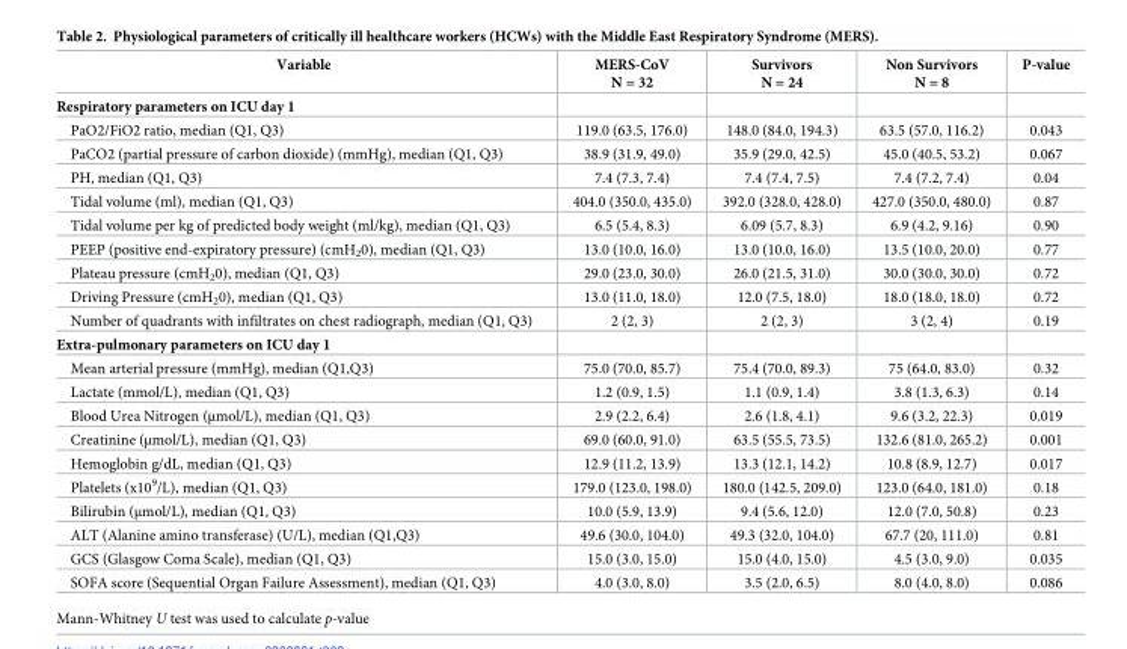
<table><thead><tr><td>Variable</td><td>MERS-CoV N = 32</td><td>Survivors N = 24</td><td>Non Survivors N = 8</td><td>P-value</td></tr></thead><tbody><tr><td colspan="5">Respiratory parameters on ICU day 1</td></tr><tr><td>PaO2/FiO2 ratio, median (Q1, Q3)</td><td>119.0 (63.5, 176.0)</td><td>148.0 (84.0, 194.3)</td><td>63.5 (57.0, 116.2)</td><td>0.043</td></tr><tr><td>PaCO2 (partial pressure of carbon dioxide) (mmHg), median (Q1, Q3)</td><td>38.9 (31.9, 49.0)</td><td>35.9 (29.0, 42.5)</td><td>45.0 (40.5, 53.2)</td><td>0.067</td></tr><tr><td>PH, median (Q1, Q3)</td><td>7.4 (7.3, 7.4)</td><td>7.4 (7.4, 7.5)</td><td>7.4 (7.2, 7.4)</td><td>0.04</td></tr><tr><td>Tidal volume (ml), median (Q1, Q3)</td><td>404.0 (350.0, 435.0)</td><td>392.0 (328.0, 428.0)</td><td>427.0 (350.0, 480.0)</td><td>0.87</td></tr><tr><td>Tidal volume per kg of predicted body weight (ml/kg), median (Q1, Q3)</td><td>6.5 (5.4, 8.3)</td><td>6.09 (5.7, 8.3)</td><td>6.9 (4.2, 9.16)</td><td>0.90</td></tr><tr><td>PEEP (positive end-expiratory pressure) (cmH<sub>2</sub>0), median (Q1, Q3)</td><td>13.0 (10.0, 16.0)</td><td>13.0 (10.0, 16.0)</td><td>13.5 (10.0, 20.0)</td><td>0.77</td></tr><tr><td>Plateau pressure (cmH<sub>2</sub>0), median (Q1, Q3)</td><td>29.0 (23.0, 30.0)</td><td>26.0 (21.5, 31.0)</td><td>30.0 (30.0, 30.0)</td><td>0.72</td></tr><tr><td>Driving Pressure (cmH<sub>2</sub>0), median (Q1, Q3)</td><td>13.0 (11.0, 18.0)</td><td>12.0 (7.5, 18.0)</td><td>18.0 (18.0, 18.0)</td><td>0.72</td></tr><tr><td>Number of quadrants with infiltrates on chest radiograph, median (Q1, Q3)</td><td>2 (2, 3)</td><td>2 (2, 3)</td><td>3 (2, 4)</td><td>0.19</td></tr><tr><td colspan="5">Extra-pulmonary parameters on ICU day 1</td></tr><tr><td>Mean arterial pressure (mmHg), median (Q1,Q3)</td><td>75.0 (70.0, 85.7)</td><td>75.4 (70.0, 89.3)</td><td>75 (64.0, 83.0)</td><td>0.32</td></tr><tr><td>Lactate (mmol/L), median (Q1, Q3)</td><td>1.2 (0.9, 1.5)</td><td>1.1 (0.9, 1.4)</td><td>3.8 (1.3, 6.3)</td><td>0.14</td></tr><tr><td>Blood Urea Nitrogen (μmol/L), median (Q1, Q3)</td><td>2.9 (2.2, 6.4)</td><td>2.6 (1.8, 4.1)</td><td>9.6 (3.2, 22.3)</td><td>0.019</td></tr><tr><td>Creatinine (μmol/L), median (Q1, Q3)</td><td>69.0 (60.0, 91.0)</td><td>63.5 (55.5, 73.5)</td><td>132.6 (81.0, 265.2)</td><td>0.001</td></tr><tr><td>Hemoglobin g/dL, median (Q1, Q3)</td><td>12.9 (11.2, 13.9)</td><td>13.3 (12.1, 14.2)</td><td>10.8 (8.9, 12.7)</td><td>0.017</td></tr><tr><td>Platelets (x10<sup>9</sup>/L), median (Q1, Q3)</td><td>179.0 (123.0, 198.0)</td><td>180.0 (142.5, 209.0)</td><td>123.0 (64.0, 181.0)</td><td>0.18</td></tr><tr><td>Bilirubin (μmol/L), median (Q1, Q3)</td><td>10.0 (5.9, 13.9)</td><td>9.4 (5.6, 12.0)</td><td>12.0 (7.0, 50.8)</td><td>0.23</td></tr><tr><td>ALT (Alanine amino transferase) (U/L), median (Q1,Q3)</td><td>49.6 (30.0, 104.0)</td><td>49.3 (32.0, 104.0)</td><td>67.7 (20, 111.0)</td><td>0.81</td></tr><tr><td>GCS (Glasgow Coma Scale), median (Q1, Q3)</td><td>15.0 (3.0, 15.0)</td><td>15.0 (4.0, 15.0)</td><td>4.5 (3.0, 9.0)</td><td>0.035</td></tr><tr><td>SOFA score (Sequential Organ Failure Assessment), median (Q1, Q3)</td><td>4.0 (3.0, 8.0)</td><td>3.5 (2.0, 6.5)</td><td>8.0 (4.0, 8.0)</td><td>0.086</td></tr></tbody></table>